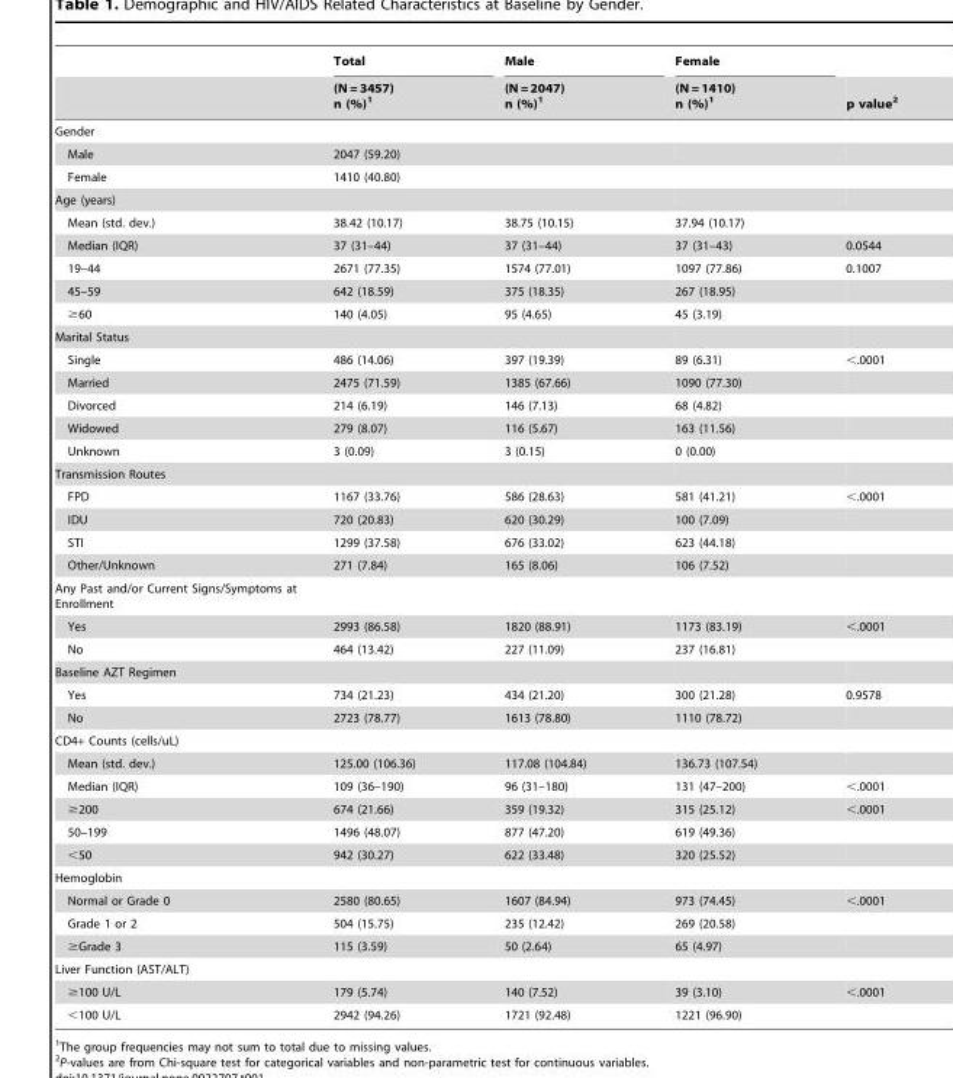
<table><thead><tr><td rowspan="2"></td><td rowspan="2">Total (N = 3457) n (%)<sup>1</sup></td><td rowspan="2">Male (N = 2047) n (%)1</td><td rowspan="2">Female (N = 1410) n (%)1</td><td rowspan="2">p value<sup>2</sup></td></tr><tr></tr></thead><tbody><tr><td colspan="5">Gender</td></tr><tr><td>Male</td><td>2047 (59.20)</td><td></td><td></td><td></td></tr><tr><td>Female</td><td>1410 (40.80)</td><td></td><td></td><td></td></tr><tr><td colspan="5">Age (years)</td></tr><tr><td>Mean (std. dev.)</td><td>38.42 (10.17)</td><td>38.75 (10.15)</td><td>37.94 (10.17)</td><td></td></tr><tr><td>Median (IQR)</td><td>37 (31–44)</td><td>37 (31–44)</td><td>37 (31–43)</td><td>0.0544</td></tr><tr><td>19–44</td><td>2671 (77.35)</td><td>1574 (77.01)</td><td>1097 (77.86)</td><td>0.1007</td></tr><tr><td>45–59</td><td>642 (18.59)</td><td>375 (18.35)</td><td>267 (18.95)</td><td></td></tr><tr><td>≥60</td><td>140 (4.05)</td><td>95 (4.65)</td><td>45 (3.19)</td><td></td></tr><tr><td colspan="5">Marital Status</td></tr><tr><td>Single</td><td>486 (14.06)</td><td>397 (19.39)</td><td>89 (6.31)</td><td>&lt;.0001</td></tr><tr><td>Married</td><td>2475 (71.59)</td><td>1385 (67.66)</td><td>1090 (77.30)</td><td></td></tr><tr><td>Divorced</td><td>214 (6.19)</td><td>146 (7.13)</td><td>68 (4.82)</td><td></td></tr><tr><td>Widowed</td><td>279 (8.07)</td><td>116 (5.67)</td><td>163 (11.56)</td><td></td></tr><tr><td>Unknown</td><td>3 (0.09)</td><td>3 (0.15)</td><td>0 (0.00)</td><td></td></tr><tr><td colspan="5">Transmission Routes</td></tr><tr><td>FPD</td><td>1167 (33.76)</td><td>586 (28.63)</td><td>581 (41.21)</td><td>&lt;.0001</td></tr><tr><td>IDU</td><td>720 (20.83)</td><td>620 (30.29)</td><td>100 (7.09)</td><td></td></tr><tr><td>STI</td><td>1299 (37.58)</td><td>676 (33.02)</td><td>623 (44.18)</td><td></td></tr><tr><td>Other/Unknown</td><td>271 (7.84)</td><td>165 (8.06)</td><td>106 (7.52)</td><td></td></tr><tr><td colspan="5">Any Past and/or Current Signs/Symptoms at Enrollment</td></tr><tr><td>Yes</td><td>2993 (86.58)</td><td>1820 (88.91)</td><td>1173 (83.19)</td><td>&lt;.0001</td></tr><tr><td>No</td><td>464 (13.42)</td><td>227 (11.09)</td><td>237 (16.81)</td><td></td></tr><tr><td colspan="5">Baseline AZT Regimen</td></tr><tr><td>Yes</td><td>734 (21.23)</td><td>434 (21.20)</td><td>300 (21.28)</td><td>0.9578</td></tr><tr><td>No</td><td>2723 (78.77)</td><td>1613 (78.80)</td><td>1110 (78.72)</td><td></td></tr><tr><td colspan="5">CD4+ Counts (cells/uL)</td></tr><tr><td>Mean (std. dev.)</td><td>125.00 (106.36)</td><td>117.08 (104.84)</td><td>136.73 (107.54)</td><td></td></tr><tr><td>Median (IQR)</td><td>109 (36–190)</td><td>96 (31–180)</td><td>131 (47–200)</td><td>&lt;.0001</td></tr><tr><td>≥200</td><td>674 (21.66)</td><td>359 (19.32)</td><td>315 (25.12)</td><td>&lt;.0001</td></tr><tr><td>50–199</td><td>1496 (48.07)</td><td>877 (47.20)</td><td>619 (49.36)</td><td></td></tr><tr><td>&lt;50</td><td>942 (30.27)</td><td>622 (33.48)</td><td>320 (25.52)</td><td></td></tr><tr><td colspan="5">Hemoglobin</td></tr><tr><td>Normal or Grade 0</td><td>2580 (80.65)</td><td>1607 (84.94)</td><td>973 (74.45)</td><td>&lt;.0001</td></tr><tr><td>Grade 1 or 2</td><td>504 (15.75)</td><td>235 (12.42)</td><td>269 (20.58)</td><td></td></tr><tr><td>≥Grade 3</td><td>115 (3.59)</td><td>50 (2.64)</td><td>65 (4.97)</td><td></td></tr><tr><td colspan="5">Liver Function (AST/ALT)</td></tr><tr><td>≥100 U/L</td><td>179 (5.74)</td><td>140 (7.52)</td><td>39 (3.10)</td><td>&lt;.0001</td></tr><tr><td>&lt;100 U/L</td><td>2942 (94.26)</td><td>1721 (92.48)</td><td>1221 (96.90)</td><td></td></tr></tbody></table>